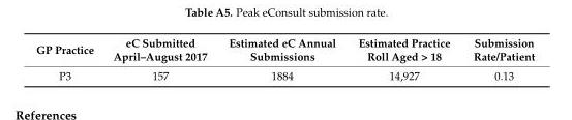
<table><thead><tr><td>GP Practice</td><td>eC Submitted April–August 2017</td><td>Estimated eC Annual Submissions</td><td>Estimated Practice Roll Aged &gt; 18</td><td>Submission Rate/Patient</td></tr></thead><tbody><tr><td>P3</td><td>157</td><td>1884</td><td>14,927</td><td>0.13</td></tr></tbody></table>